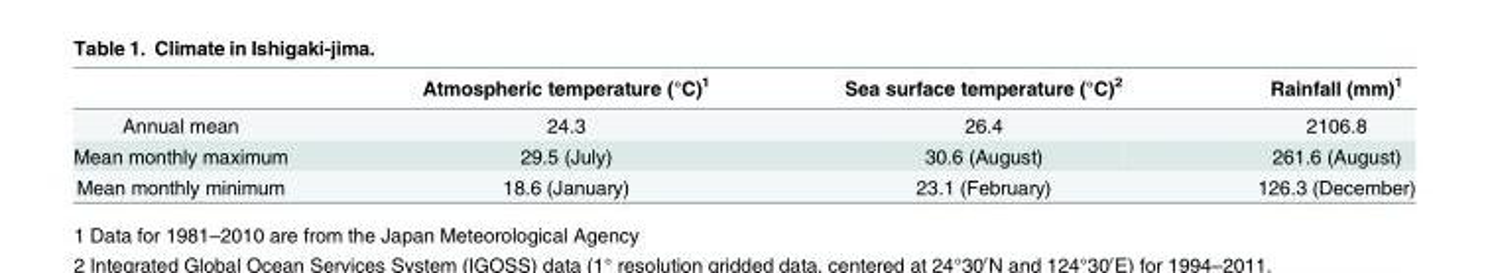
<table><thead><tr><td></td><td>Atmospheric temperature (°C)<sup>1</sup></td><td>Sea surface temperature (°C)<sup>2</sup></td><td>Rainfall (mm)<sup>1</sup></td></tr></thead><tbody><tr><td>Annual mean</td><td>24.3</td><td>26.4</td><td>2106.8</td></tr><tr><td>Mean monthly maximum</td><td>29.5 (July)</td><td>30.6 (August)</td><td>261.6 (August)</td></tr><tr><td>Mean monthly minimum</td><td>18.6 (January)</td><td>23.1 (February)</td><td>126.3 (December)</td></tr></tbody></table>